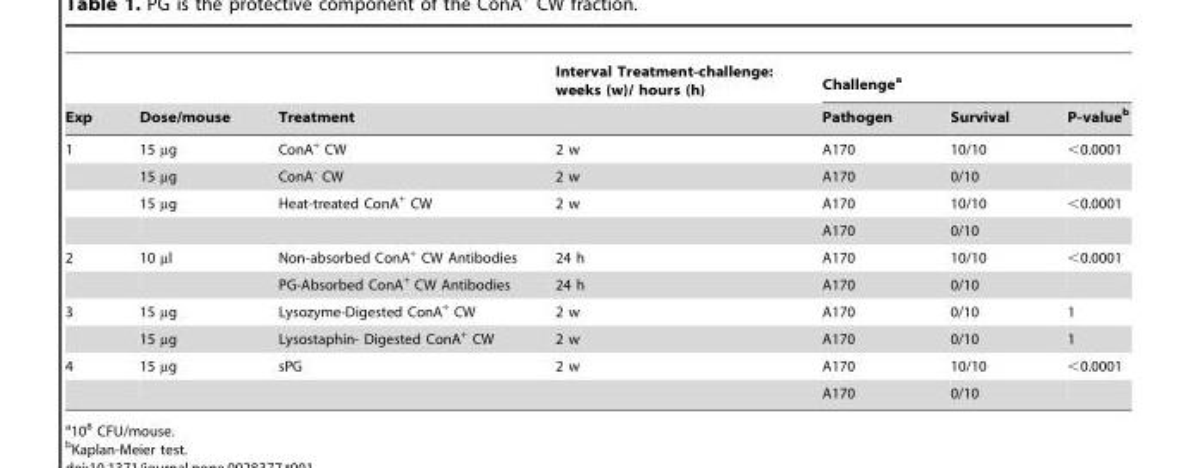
<table><thead><tr><td rowspan="2">Exp</td><td rowspan="2">Dose/mouse</td><td rowspan="2">Treatment</td><td rowspan="2">Interval Treatment-challenge: weeks (w)/ hours (h)</td><td colspan="3">Challenge<sup>a</sup></td></tr><tr><td>Pathogen</td><td>Survival</td><td>P-value<sup>b</sup></td></tr></thead><tbody><tr><td rowspan="4">1</td><td>15 µg</td><td>ConA<sup>+</sup> CW</td><td>2 w</td><td>A170</td><td>10/10</td><td>&lt;0.0001</td></tr><tr><td>15 µg</td><td>ConA<sup>-</sup> CW</td><td>2 w</td><td>A170</td><td>0/10</td><td></td></tr><tr><td>15 µg</td><td>Heat-treated ConA<sup>+</sup> CW</td><td>2 w</td><td>A170</td><td>10/10</td><td>&lt;0.0001</td></tr><tr><td></td><td></td><td></td><td>A170</td><td>0/10</td><td></td></tr><tr><td rowspan="2">2</td><td>10 µl</td><td>Non-absorbed ConA<sup>+</sup> CW Antibodies</td><td>24 h</td><td>A170</td><td>10/10</td><td>&lt;0.0001</td></tr><tr><td></td><td>PG-Absorbed ConA<sup>+</sup> CW Antibodies</td><td>24 h</td><td>A170</td><td>0/10</td><td></td></tr><tr><td rowspan="2">3</td><td>15 µg</td><td>Lysozyme-Digested ConA<sup>+</sup> CW</td><td>2 w</td><td>A170</td><td>0/10</td><td>1</td></tr><tr><td>15 µg</td><td>Lysostaphin- Digested ConA<sup>+</sup> CW</td><td>2 w</td><td>A170</td><td>0/10</td><td>1</td></tr><tr><td rowspan="2">4</td><td>15 µg</td><td>sPG</td><td>2 w</td><td>A170</td><td>10/10</td><td>&lt;0.0001</td></tr><tr><td></td><td></td><td></td><td>A170</td><td>0/10</td><td></td></tr></tbody></table>